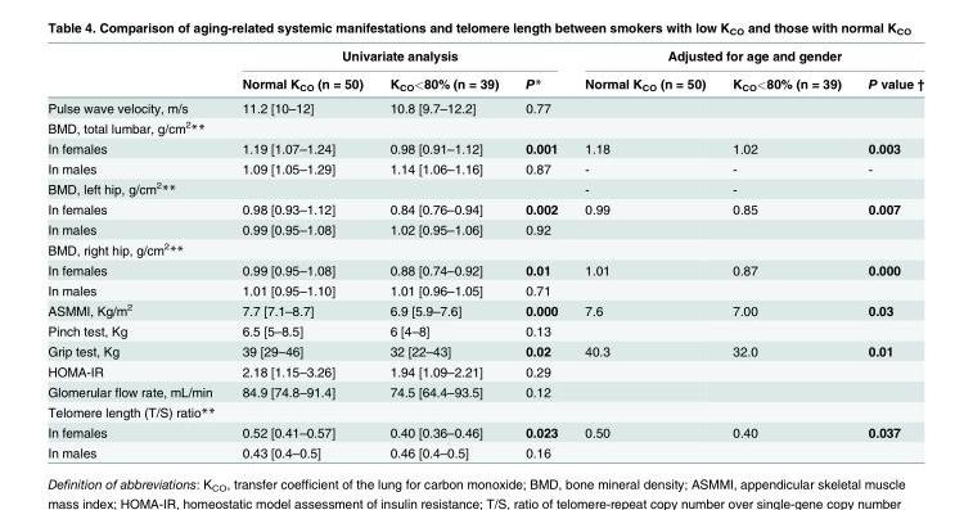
<table><thead><tr><td rowspan="2"></td><td colspan="3">Univariate analysis</td><td colspan="3">Adjusted for age and gender</td></tr><tr><td>Normal K<sub>CO</sub> (n = 50)</td><td>K<sub>CO</sub>&lt;80% (n = 39)</td><td>P*</td><td>Normal K<sub>CO</sub> (n = 50)</td><td>K<sub>CO</sub>&lt;80% (n = 39)</td><td>P value †</td></tr></thead><tbody><tr><td>Pulse wave velocity, m/s</td><td>11.2 [10–12]</td><td>10.8 [9.7–12.2]</td><td>0.77</td><td></td><td></td><td></td></tr><tr><td colspan="7">BMD, total lumbar, g/cm<sup>2</sup>**</td></tr><tr><td>In females</td><td>1.19 [1.07–1.24]</td><td>0.98 [0.91–1.12]</td><td>0.001</td><td>1.18</td><td>1.02</td><td>0.003</td></tr><tr><td>In males</td><td>1.09 [1.05–1.29]</td><td>1.14 [1.06–1.16]</td><td>0.87</td><td>-</td><td>-</td><td>-</td></tr><tr><td>BMD, left hip, g/cm<sup>2</sup>**</td><td></td><td></td><td></td><td>-</td><td>-</td><td></td></tr><tr><td>In females</td><td>0.98 [0.93–1.12]</td><td>0.84 [0.76–0.94]</td><td>0.002</td><td>0.99</td><td>0.85</td><td>0.007</td></tr><tr><td>In males</td><td>0.99 [0.95–1.08]</td><td>1.02 [0.95–1.06]</td><td>0.92</td><td></td><td></td><td></td></tr><tr><td colspan="7">BMD, right hip, g/cm<sup>2</sup>**</td></tr><tr><td>In females</td><td>0.99 [0.95–1.08]</td><td>0.88 [0.74–0.92]</td><td>0.01</td><td>1.01</td><td>0.87</td><td>0.000</td></tr><tr><td>In males</td><td>1.01 [0.95–1.10]</td><td>1.01 [0.96–1.05]</td><td>0.71</td><td></td><td></td><td></td></tr><tr><td>ASMMI, Kg/m<sup>2</sup></td><td>7.7 [7.1–8.7]</td><td>6.9 [5.9–7.6]</td><td>0.000</td><td>7.6</td><td>7.00</td><td>0.03</td></tr><tr><td>Pinch test, Kg</td><td>6.5 [5–8.5]</td><td>6 [4–8]</td><td>0.13</td><td></td><td></td><td></td></tr><tr><td>Grip test, Kg</td><td>39 [29–46]</td><td>32 [22–43]</td><td>0.02</td><td>40.3</td><td>32.0</td><td>0.01</td></tr><tr><td>HOMA-IR</td><td>2.18 [1.15–3.26]</td><td>1.94 [1.09–2.21]</td><td>0.29</td><td></td><td></td><td></td></tr><tr><td>Glomerular flow rate, mL/min</td><td>84.9 [74.8–91.4]</td><td>74.5 [64.4–93.5]</td><td>0.12</td><td></td><td></td><td></td></tr><tr><td colspan="7">Telomere length (T/S) ratio**</td></tr><tr><td>In females</td><td>0.52 [0.41–0.57]</td><td>0.40 [0.36–0.46]</td><td>0.023</td><td>0.50</td><td>0.40</td><td>0.037</td></tr><tr><td>In males</td><td>0.43 [0.4–0.5]</td><td>0.46 [0.4–0.5]</td><td>0.16</td><td></td><td></td><td></td></tr></tbody></table>